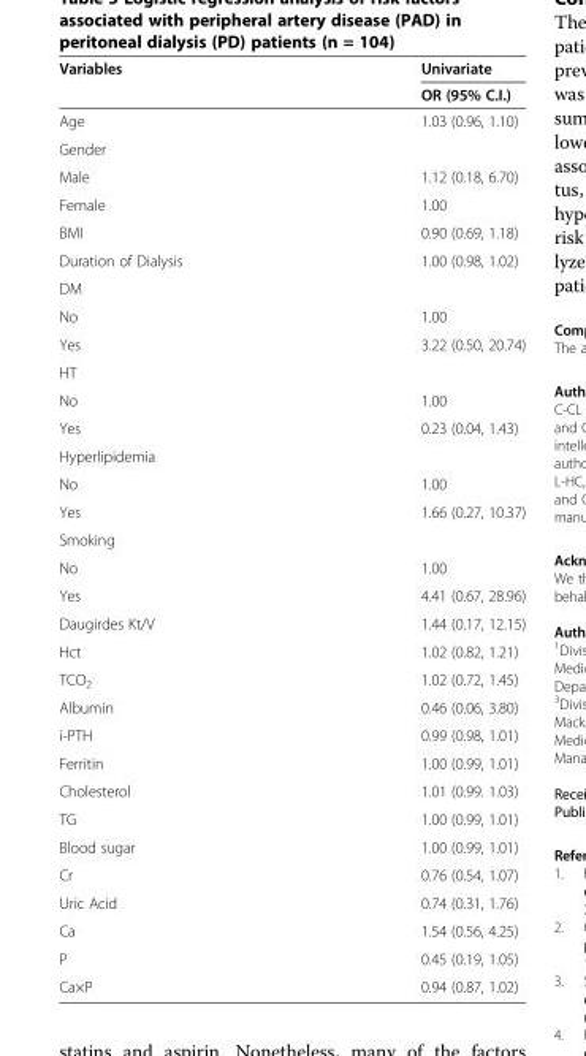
<table><thead><tr><td rowspan="2">Variables</td><td rowspan="2">Univariate OR (95% C.I.)</td></tr><tr></tr></thead><tbody><tr><td>Age</td><td>1.03 (0.96, 1.10)</td></tr><tr><td colspan="2">Gender</td></tr><tr><td>Male</td><td>1.12 (0.18, 6.70)</td></tr><tr><td>Female</td><td>1.00</td></tr><tr><td>BMI</td><td>0.90 (0.69, 1.18)</td></tr><tr><td>Duration of Dialysis</td><td>1.00 (0.98, 1.02)</td></tr><tr><td colspan="2">DM</td></tr><tr><td>No</td><td>1.00</td></tr><tr><td>Yes</td><td>3.22 (0.50, 20.74)</td></tr><tr><td colspan="2">HT</td></tr><tr><td>No</td><td>1.00</td></tr><tr><td>Yes</td><td>0.23 (0.04, 1.43)</td></tr><tr><td colspan="2">Hyperlipidemia</td></tr><tr><td>No</td><td>1.00</td></tr><tr><td>Yes</td><td>1.66 (0.27, 10.37)</td></tr><tr><td colspan="2">Smoking</td></tr><tr><td>No</td><td>1.00</td></tr><tr><td>Yes</td><td>4.41 (0.67, 28.96)</td></tr><tr><td>Daugirdes Kt/V</td><td>1.44 (0.17, 12.15)</td></tr><tr><td>Hct</td><td>1.02 (0.82, 1.21)</td></tr><tr><td>TCO<sub>2</sub></td><td>1.02 (0.72, 1.45)</td></tr><tr><td>Albumin</td><td>0.46 (0.06, 3.80)</td></tr><tr><td>i-PTH</td><td>0.99 (0.98, 1.01)</td></tr><tr><td>Ferritin</td><td>1.00 (0.99, 1.01)</td></tr><tr><td>Cholesterol</td><td>1.01 (0.99. 1.03)</td></tr><tr><td>TG</td><td>1.00 (0.99, 1.01)</td></tr><tr><td>Blood sugar</td><td>1.00 (0.99, 1.01)</td></tr><tr><td>Cr</td><td>0.76 (0.54, 1.07)</td></tr><tr><td>Uric Acid</td><td>0.74 (0.31, 1.76)</td></tr><tr><td>Ca</td><td>1.54 (0.56, 4.25)</td></tr><tr><td>P</td><td>0.45 (0.19, 1.05)</td></tr><tr><td>Ca×P</td><td>0.94 (0.87, 1.02)</td></tr></tbody></table>